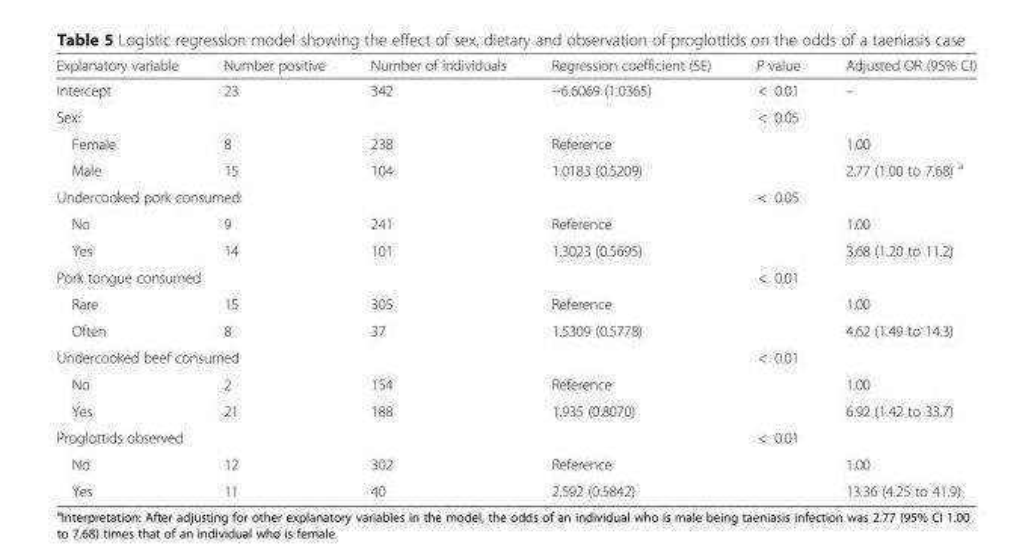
<table><thead><tr><td>Explanatory variable</td><td>Number positive</td><td>Number of individuals</td><td>Regression coefficient (SE)</td><td>P value</td><td>Adjusted OR (95% CI)</td></tr></thead><tbody><tr><td>Intercept</td><td>23</td><td>342</td><td>−6.6069 (1.0365)</td><td>&lt; 0.01</td><td>–</td></tr><tr><td colspan="4">Sex:</td><td>&lt; 0.05</td><td></td></tr><tr><td>Female</td><td>8</td><td>238</td><td>Reference</td><td></td><td>1.00</td></tr><tr><td>Male</td><td>15</td><td>104</td><td>1.0183 (0.5209)</td><td></td><td>2.77 (1.00 to 7.68) <sup>a</sup></td></tr><tr><td colspan="4">Undercooked pork consumed:</td><td>&lt; 0.05</td><td></td></tr><tr><td>No</td><td>9</td><td>241</td><td>Reference</td><td></td><td>1.00</td></tr><tr><td>Yes</td><td>14</td><td>101</td><td>1.3023 (0.5695)</td><td></td><td>3.68 (1.20 to 11.2)</td></tr><tr><td colspan="4">Pork tongue consumed</td><td>&lt; 0.01</td><td></td></tr><tr><td>Rare</td><td>15</td><td>305</td><td>Reference</td><td></td><td>1.00</td></tr><tr><td>Often</td><td>8</td><td>37</td><td>1.5309 (0.5778)</td><td></td><td>4.62 (1.49 to 14.3)</td></tr><tr><td colspan="4">Undercooked beef consumed</td><td>&lt; 0.01</td><td></td></tr><tr><td>No</td><td>2</td><td>154</td><td>Reference</td><td></td><td>1.00</td></tr><tr><td>Yes</td><td>21</td><td>188</td><td>1.935 (0.8070)</td><td></td><td>6.92 (1.42 to 33.7)</td></tr><tr><td colspan="4">Proglottids observed</td><td>&lt; 0.01</td><td></td></tr><tr><td>No</td><td>12</td><td>302</td><td>Reference</td><td></td><td>1.00</td></tr><tr><td>Yes</td><td>11</td><td>40</td><td>2.592 (0.5842)</td><td></td><td>13.36 (4.25 to 41.9)</td></tr></tbody></table>